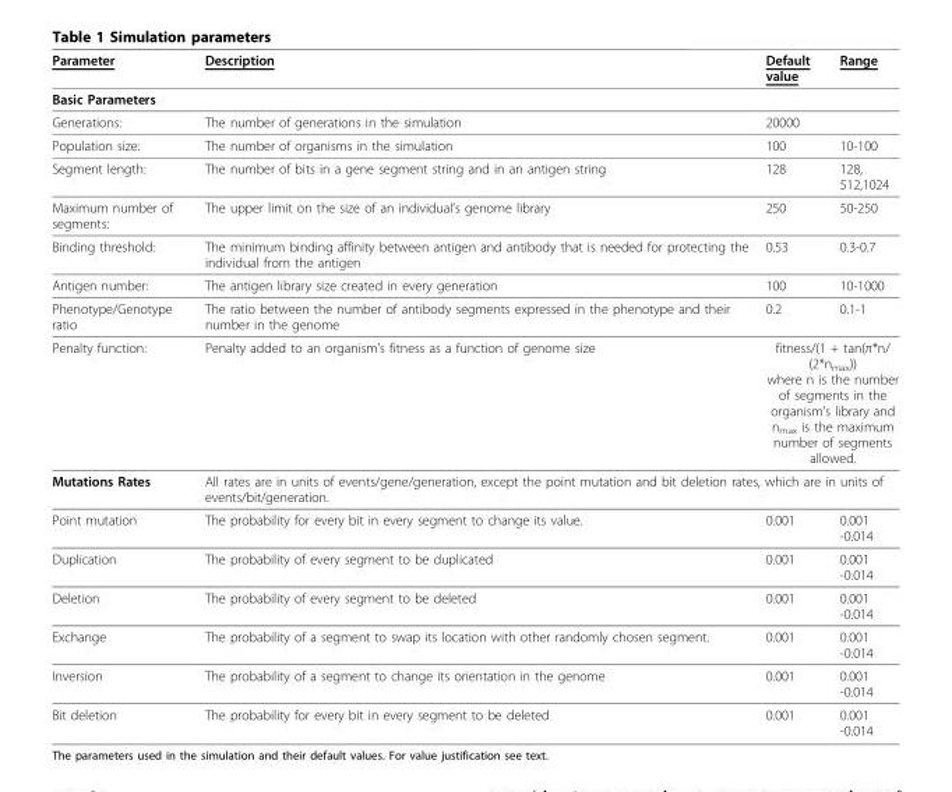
<table><thead><tr><td>Parameter</td><td>Description</td><td>Default value</td><td>Range</td></tr></thead><tbody><tr><td colspan="4">Basic Parameters</td></tr><tr><td>Generations:</td><td>The number of generations in the simulation</td><td>20000</td><td></td></tr><tr><td>Population size:</td><td>The number of organisms in the simulation</td><td>100</td><td>10-100</td></tr><tr><td>Segment length:</td><td>The number of bits in a gene segment string and in an antigen string</td><td>128</td><td>128, 512,1024</td></tr><tr><td>Maximum number of segments:</td><td>The upper limit on the size of an individual’s genome library</td><td>250</td><td>50-250</td></tr><tr><td>Binding threshold:</td><td>The minimum binding affinity between antigen and antibody that is needed for protecting the individual from the antigen</td><td>0.53</td><td>0.3-0.7</td></tr><tr><td>Antigen number:</td><td>The antigen library size created in every generation</td><td>100</td><td>10-1000</td></tr><tr><td>Phenotype/Genotype ratio</td><td>The ratio between the number of antibody segments expressed in the phenotype and their number in the genome</td><td>0.2</td><td>0.1-1</td></tr><tr><td>Penalty function:</td><td>Penalty added to an organism’s fitness as a function of genome size</td><td colspan="2">fitness/(1 + tan(π*n/ (2*n<sub>max</sub>)) where n is the number of segments in the organism’s library and n<sub>max</sub> is the maximum number of segments allowed.</td></tr><tr><td>Mutations Rates</td><td colspan="3">All rates are in units of events/gene/generation, except the point mutation and bit deletion rates, which are in units of events/bit/generation.</td></tr><tr><td>Point mutation</td><td>The probability for every bit in every segment to change its value.</td><td>0.001</td><td>0.001 -0.014</td></tr><tr><td>Duplication</td><td>The probability of every segment to be duplicated</td><td>0.001</td><td>0.001 -0.014</td></tr><tr><td>Deletion</td><td>The probability of every segment to be deleted</td><td>0.001</td><td>0.001 -0.014</td></tr><tr><td>Exchange</td><td>The probability of a segment to swap its location with other randomly chosen segment.</td><td>0.001</td><td>0.001 -0.014</td></tr><tr><td>Inversion</td><td>The probability of a segment to change its orientation in the genome</td><td>0.001</td><td>0.001 -0.014</td></tr><tr><td>Bit deletion</td><td>The probability for every bit in every segment to be deleted</td><td>0.001</td><td>0.001 -0.014</td></tr></tbody></table>